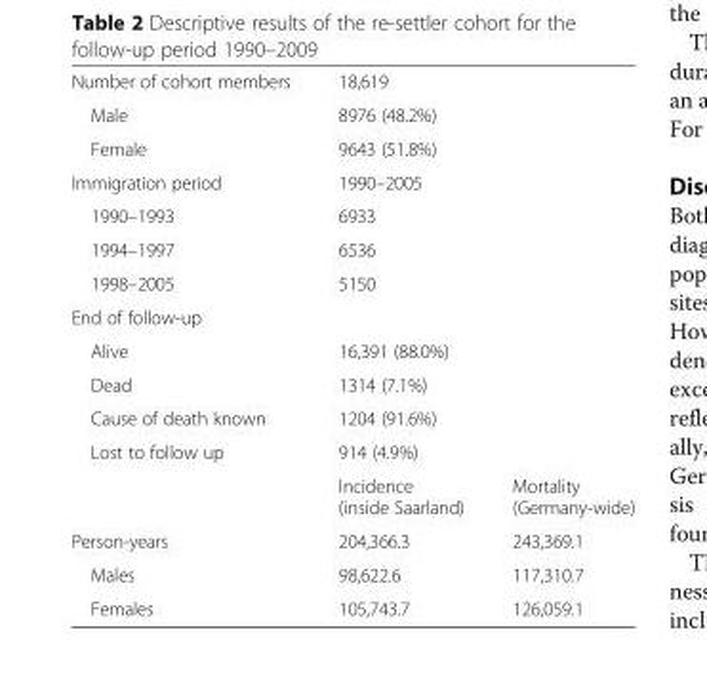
<table><tbody><tr><td>Number of cohort members</td><td colspan="2">18,619</td></tr><tr><td>Male</td><td colspan="2">8976 (48.2%)</td></tr><tr><td>Female</td><td colspan="2">9643 (51.8%)</td></tr><tr><td>Immigration period</td><td colspan="2">1990–2005</td></tr><tr><td>1990–1993</td><td colspan="2">6933</td></tr><tr><td>1994–1997</td><td colspan="2">6536</td></tr><tr><td>1998–2005</td><td colspan="2">5150</td></tr><tr><td colspan="3">End of follow-up</td></tr><tr><td>Alive</td><td colspan="2">16,391 (88.0%)</td></tr><tr><td>Dead</td><td colspan="2">1314 (7.1%)</td></tr><tr><td>Cause of death known</td><td colspan="2">1204 (91.6%)</td></tr><tr><td rowspan="2">Lost to follow up</td><td colspan="2">914 (4.9%)</td></tr><tr><td>Incidence (inside Saarland)</td><td>Mortality (Germany-wide)</td></tr><tr><td>Person-years</td><td>204,366.3</td><td>243,369.1</td></tr><tr><td>Males</td><td>98,622.6</td><td>117,310.7</td></tr><tr><td>Females</td><td>105,743.7</td><td>126,059.1</td></tr></tbody></table>